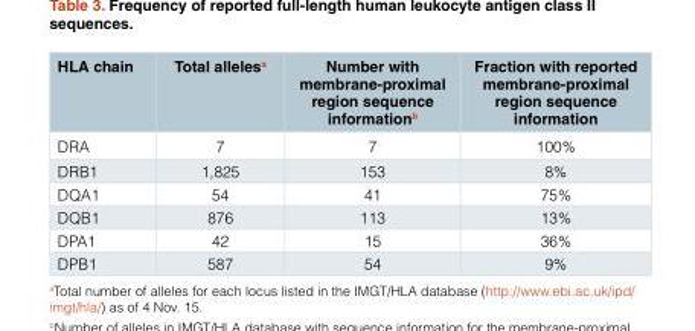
<table><thead><tr><td>HLA chain</td><td>Total alleles<sup>a</sup></td><td>Number with membrane-proximal region sequence information<sup>b</sup></td><td>Fraction with reported membrane-proximal region sequence information</td></tr></thead><tbody><tr><td>DRA</td><td>7</td><td>7</td><td>100%</td></tr><tr><td>DRB1</td><td>1,825</td><td>153</td><td>8%</td></tr><tr><td>DQA1</td><td>54</td><td>41</td><td>75%</td></tr><tr><td>DQB1</td><td>876</td><td>113</td><td>13%</td></tr><tr><td>DPA1</td><td>42</td><td>15</td><td>36%</td></tr><tr><td>DPB1</td><td>587</td><td>54</td><td>9%</td></tr></tbody></table>